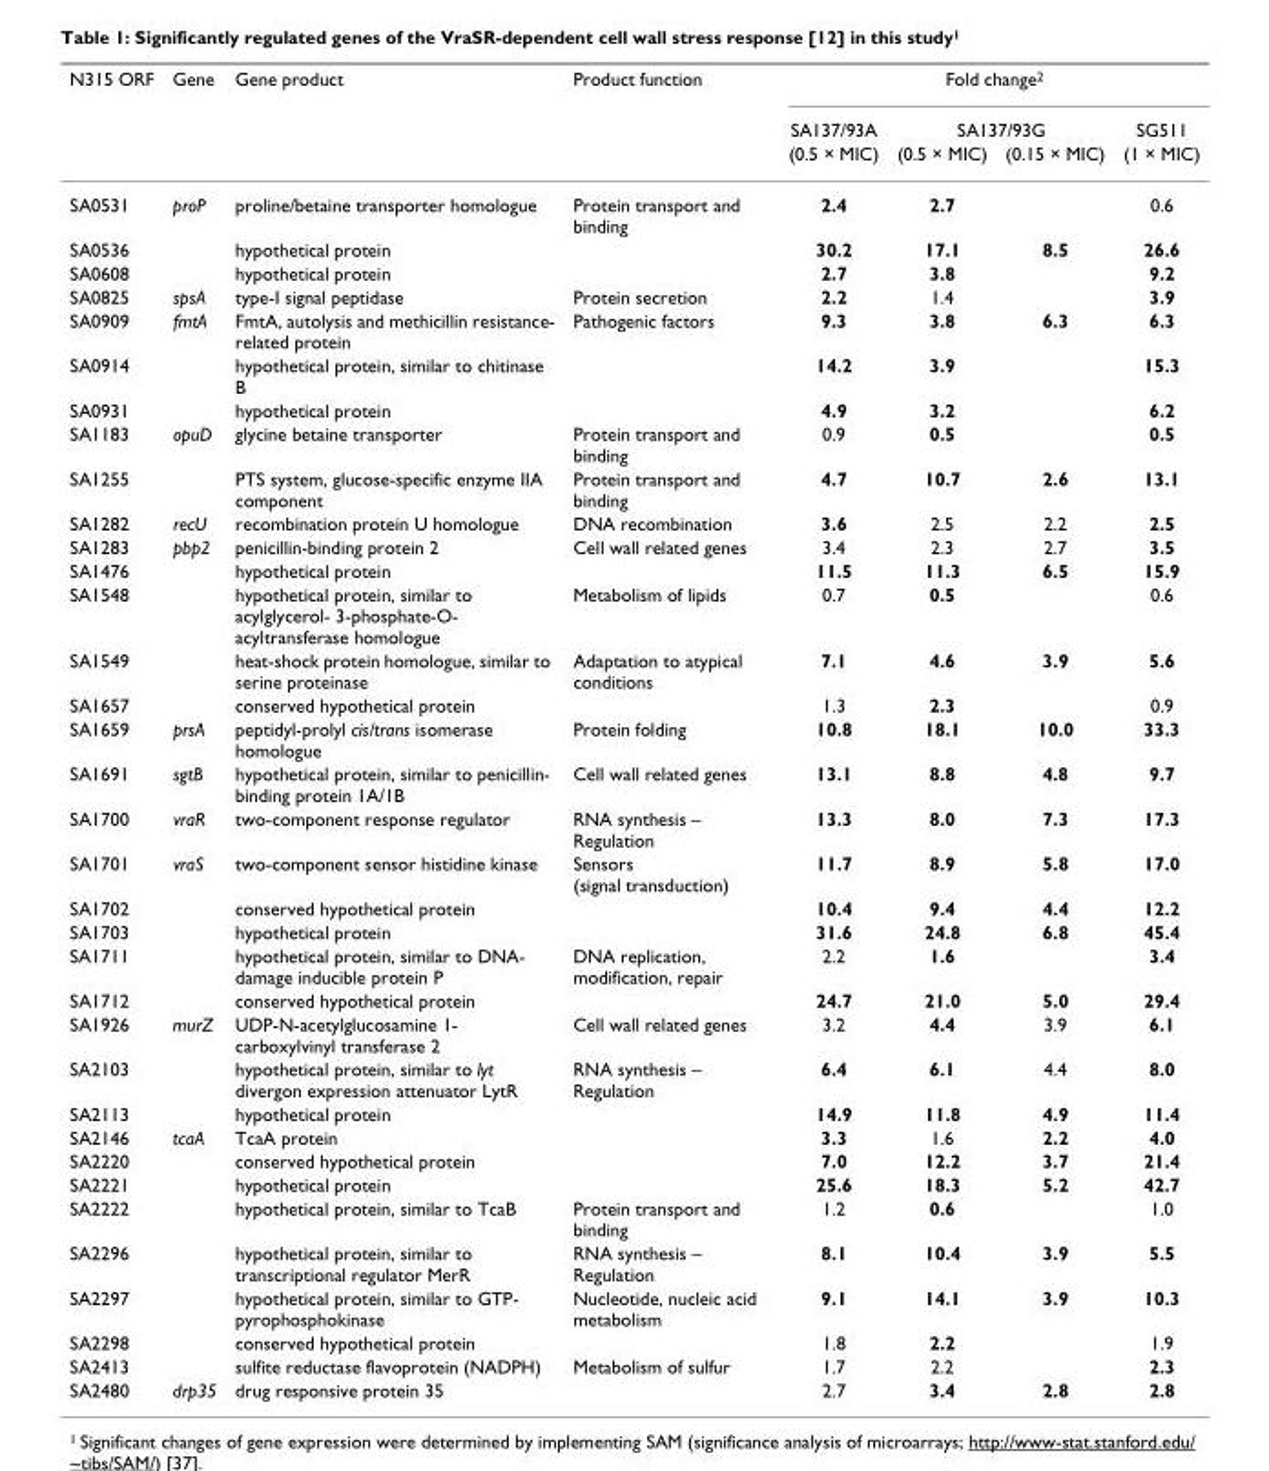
<table><thead><tr><td rowspan="3">N315 ORF</td><td rowspan="3">Gene</td><td rowspan="3">Gene product</td><td rowspan="3">Product function</td><td colspan="4">Fold change<sup>2</sup></td></tr><tr><td rowspan="2">SA137/93A (0.5 × MIC)</td><td colspan="2">SA137/93G</td><td rowspan="2">SG511 (1 × MIC)</td></tr><tr><td>(0.5 × MIC)</td><td>(0.15 × MIC)</td></tr></thead><tbody><tr><td>SA0531</td><td>proP</td><td>proline/betaine transporter homologue</td><td>Protein transport and binding</td><td>2.4</td><td>2.7</td><td></td><td>0.6</td></tr><tr><td>SA0536</td><td></td><td>hypothetical protein</td><td></td><td>30.2</td><td>17.1</td><td>8.5</td><td>26.6</td></tr><tr><td>SA0608</td><td></td><td>hypothetical protein</td><td></td><td>2.7</td><td>3.8</td><td></td><td>9.2</td></tr><tr><td>SA0825</td><td>spsA</td><td>type-I signal peptidase</td><td>Protein secretion</td><td>2.2</td><td>1.4</td><td></td><td>3.9</td></tr><tr><td>SA0909</td><td>fmtA</td><td>FmtA, autolysis and methicillin resistance- related protein</td><td>Pathogenic factors</td><td>9.3</td><td>3.8</td><td>6.3</td><td>6.3</td></tr><tr><td>SA0914</td><td></td><td>hypothetical protein, similar to chitinase B</td><td></td><td>14.2</td><td>3.9</td><td></td><td>15.3</td></tr><tr><td>SA0931</td><td></td><td>hypothetical protein</td><td></td><td>4.9</td><td>3.2</td><td></td><td>6.2</td></tr><tr><td>SA1183</td><td>opuD</td><td>glycine betaine transporter</td><td>Protein transport and binding</td><td>0.9</td><td>0.5</td><td></td><td>0.5</td></tr><tr><td>SA1255</td><td></td><td>PTS system, glucose-specific enzyme IIA component</td><td>Protein transport and binding</td><td>4.7</td><td>10.7</td><td>2.6</td><td>13.1</td></tr><tr><td>SA1282</td><td>recU</td><td>recombination protein U homologue</td><td>DNA recombination</td><td>3.6</td><td>2.5</td><td>2.2</td><td>2.5</td></tr><tr><td>SA1283</td><td>pbp2</td><td>penicillin-binding protein 2</td><td>Cell wall related genes</td><td>3.4</td><td>2.3</td><td>2.7</td><td>3.5</td></tr><tr><td>SA1476</td><td></td><td>hypothetical protein</td><td></td><td>11.5</td><td>11.3</td><td>6.5</td><td>15.9</td></tr><tr><td>SA1548</td><td></td><td>hypothetical protein, similar to acylglycerol- 3-phosphate-O- acyltransferase homologue</td><td>Metabolism of lipids</td><td>0.7</td><td>0.5</td><td></td><td>0.6</td></tr><tr><td>SA1549</td><td></td><td>heat-shock protein homologue, similar to serine proteinase</td><td>Adaptation to atypical conditions</td><td>7.1</td><td>4.6</td><td>3.9</td><td>5.6</td></tr><tr><td>SA1657</td><td></td><td>conserved hypothetical protein</td><td></td><td>1.3</td><td>2.3</td><td></td><td>0.9</td></tr><tr><td>SA1659</td><td>prsA</td><td>peptidyl-prolyl cis/trans isomerase homologue</td><td>Protein folding</td><td>10.8</td><td>18.1</td><td>10.0</td><td>33.3</td></tr><tr><td>SA1691</td><td>sgtB</td><td>hypothetical protein, similar to penicillin- binding protein 1A/1B</td><td>Cell wall related genes</td><td>13.1</td><td>8.8</td><td>4.8</td><td>9.7</td></tr><tr><td>SA1700</td><td>vraR</td><td>two-component response regulator</td><td>RNA synthesis – Regulation</td><td>13.3</td><td>8.0</td><td>7.3</td><td>17.3</td></tr><tr><td>SA1701</td><td>vraS</td><td>two-component sensor histidine kinase</td><td>Sensors (signal transduction)</td><td>11.7</td><td>8.9</td><td>5.8</td><td>17.0</td></tr><tr><td>SA1702</td><td></td><td>conserved hypothetical protein</td><td></td><td>10.4</td><td>9.4</td><td>4.4</td><td>12.2</td></tr><tr><td>SA1703</td><td></td><td>hypothetical protein</td><td></td><td>31.6</td><td>24.8</td><td>6.8</td><td>45.4</td></tr><tr><td>SA1711</td><td></td><td>hypothetical protein, similar to DNA- damage inducible protein P</td><td>DNA replication, modification, repair</td><td>2.2</td><td>1.6</td><td></td><td>3.4</td></tr><tr><td>SA1712</td><td></td><td>conserved hypothetical protein</td><td></td><td>24.7</td><td>21.0</td><td>5.0</td><td>29.4</td></tr><tr><td>SA1926</td><td>murZ</td><td>UDP-N-acetylglucosamine 1- carboxylvinyl transferase 2</td><td>Cell wall related genes</td><td>3.2</td><td>4.4</td><td>3.9</td><td>6.1</td></tr><tr><td>SA2103</td><td></td><td>hypothetical protein, similar to lyt divergon expression attenuator LytR</td><td>RNA synthesis – Regulation</td><td>6.4</td><td>6.1</td><td>4.4</td><td>8.0</td></tr><tr><td>SA2113</td><td></td><td>hypothetical protein</td><td></td><td>14.9</td><td>11.8</td><td>4.9</td><td>11.4</td></tr><tr><td>SA2146</td><td>tcaA</td><td>TcaA protein</td><td></td><td>3.3</td><td>1.6</td><td>2.2</td><td>4.0</td></tr><tr><td>SA2220</td><td></td><td>conserved hypothetical protein</td><td></td><td>7.0</td><td>12.2</td><td>3.7</td><td>21.4</td></tr><tr><td>SA2221</td><td></td><td>hypothetical protein</td><td></td><td>25.6</td><td>18.3</td><td>5.2</td><td>42.7</td></tr><tr><td>SA2222</td><td></td><td>hypothetical protein, similar to TcaB</td><td>Protein transport and binding</td><td>1.2</td><td>0.6</td><td></td><td>1.0</td></tr><tr><td>SA2296</td><td></td><td>hypothetical protein, similar to transcriptional regulator MerR</td><td>RNA synthesis – Regulation</td><td>8.1</td><td>10.4</td><td>3.9</td><td>5.5</td></tr><tr><td>SA2297</td><td></td><td>hypothetical protein, similar to GTP- pyrophosphokinase</td><td>Nucleotide, nucleic acid metabolism</td><td>9.1</td><td>14.1</td><td>3.9</td><td>10.3</td></tr><tr><td>SA2298</td><td></td><td>conserved hypothetical protein</td><td></td><td>1.8</td><td>2.2</td><td></td><td>1.9</td></tr><tr><td>SA2413</td><td></td><td>sulfite reductase flavoprotein (NADPH)</td><td>Metabolism of sulfur</td><td>1.7</td><td>2.2</td><td></td><td>2.3</td></tr><tr><td>SA2480</td><td>drp35</td><td>drug responsive protein 35</td><td></td><td>2.7</td><td>3.4</td><td>2.8</td><td>2.8</td></tr></tbody></table>